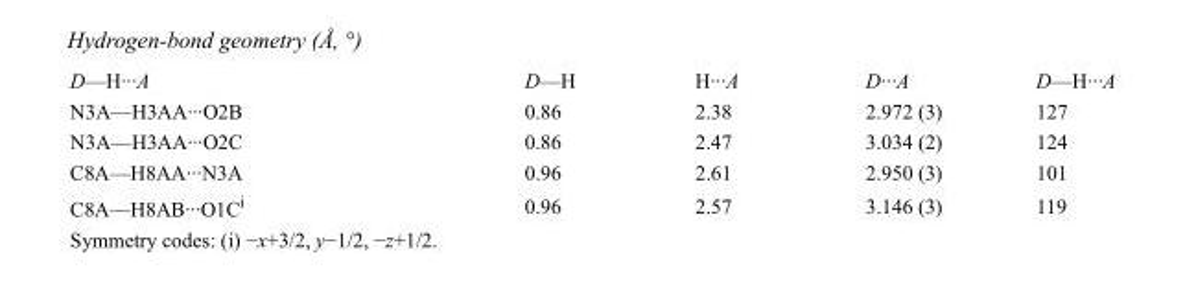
<table><tbody><tr><td>D—H···A</td><td>D—H</td><td>H···A</td><td>D···A</td><td>D—H···A</td></tr><tr><td>N3A—H3AA···O2B</td><td>0.86</td><td>2.38</td><td>2.972 (3)</td><td>127</td></tr><tr><td>N3A—H3AA···O2C</td><td>0.86</td><td>2.47</td><td>3.034 (2)</td><td>124</td></tr><tr><td>C8A—H8AA···N3A</td><td>0.96</td><td>2.61</td><td>2.950 (3)</td><td>101</td></tr><tr><td>C8A—H8AB···O1C<sup>i</sup></td><td>0.96</td><td>2.57</td><td>3.146 (3)</td><td>119</td></tr></tbody></table>